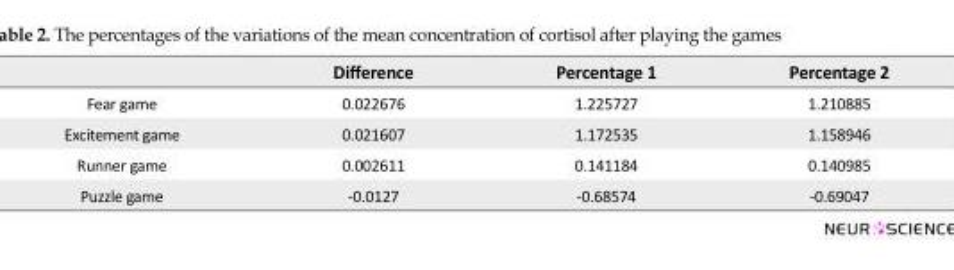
<table><thead><tr><td></td><td>Difference</td><td>Percentage 1</td><td>Percentage 2</td></tr></thead><tbody><tr><td>Fear game</td><td>0.022676</td><td>1.225727</td><td>1.210885</td></tr><tr><td>Excitement game</td><td>0.021607</td><td>1.172535</td><td>1.158946</td></tr><tr><td>Runner game</td><td>0.002611</td><td>0.141184</td><td>0.140985</td></tr><tr><td>Puzzle game</td><td>-0.0127</td><td>-0.68574</td><td>-0.69047</td></tr></tbody></table>